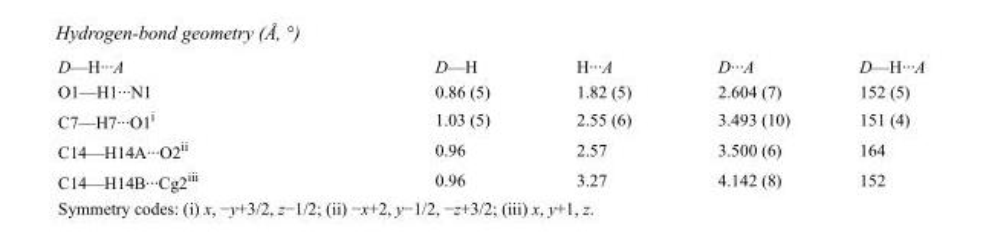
<table><tbody><tr><td>D—H···A</td><td>D—H</td><td>H···A</td><td>D···A</td><td>D—H···A</td></tr><tr><td>O1—H1···N1</td><td>0.86 (5)</td><td>1.82 (5)</td><td>2.604 (7)</td><td>152 (5)</td></tr><tr><td>C7—H7···O1<sup>i</sup></td><td>1.03 (5)</td><td>2.55 (6)</td><td>3.493 (10)</td><td>151 (4)</td></tr><tr><td>C14—H14A···O2<sup>ii</sup></td><td>0.96</td><td>2.57</td><td>3.500 (6)</td><td>164</td></tr><tr><td>C14—H14B···Cg2<sup>iii</sup></td><td>0.96</td><td>3.27</td><td>4.142 (8)</td><td>152</td></tr></tbody></table>